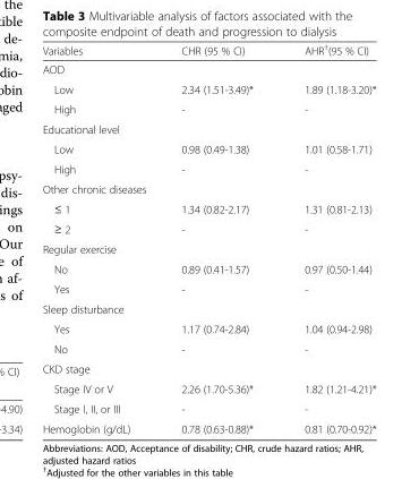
<table><thead><tr><td>Variables</td><td>CHR (95 % CI)</td><td>AHR<sup>†</sup>(95 % CI)</td></tr></thead><tbody><tr><td colspan="3">AOD</td></tr><tr><td>Low</td><td>2.34 (1.51-3.49)*</td><td>1.89 (1.18-3.20)*</td></tr><tr><td>High</td><td>-</td><td>-</td></tr><tr><td colspan="3">Educational level</td></tr><tr><td>Low</td><td>0.98 (0.49-1.38)</td><td>1.01 (0.58-1.71)</td></tr><tr><td>High</td><td>-</td><td>-</td></tr><tr><td colspan="3">Other chronic diseases</td></tr><tr><td>≤ 1</td><td>1.34 (0.82-2.17)</td><td>1.31 (0.81-2.13)</td></tr><tr><td>≥ 2</td><td>-</td><td>-</td></tr><tr><td colspan="3">Regular exercise</td></tr><tr><td>No</td><td>0.89 (0.41-1.57)</td><td>0.97 (0.50-1.44)</td></tr><tr><td>Yes</td><td>-</td><td>-</td></tr><tr><td colspan="3">Sleep disturbance</td></tr><tr><td>Yes</td><td>1.17 (0.74-2.84)</td><td>1.04 (0.94-2.98)</td></tr><tr><td>No</td><td>-</td><td>-</td></tr><tr><td colspan="3">CKD stage</td></tr><tr><td>Stage IV or V</td><td>2.26 (1.70-5.36)*</td><td>1.82 (1.21-4.21)*</td></tr><tr><td>Stage I, II, or III</td><td>-</td><td>-</td></tr><tr><td>Hemoglobin (g/dL)</td><td>0.78 (0.63-0.88)*</td><td>0.81 (0.70-0.92)*</td></tr></tbody></table>